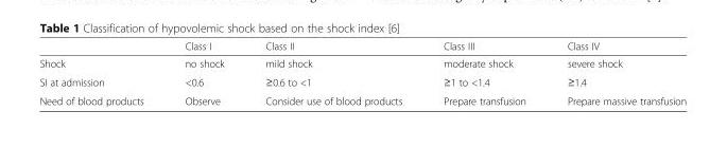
<table><thead><tr><td></td><td>Class I</td><td>Class II</td><td>Class III</td><td>Class IV</td></tr></thead><tbody><tr><td>Shock</td><td>no shock</td><td>mild shock</td><td>moderate shock</td><td>severe shock</td></tr><tr><td>SI at admission</td><td>&lt;0.6</td><td>≥0.6 to &lt;1</td><td>≥1 to &lt;1.4</td><td>≥1.4</td></tr><tr><td>Need of blood products</td><td>Observe</td><td>Consider use of blood products</td><td>Prepare transfusion</td><td>Prepare massive transfusion</td></tr></tbody></table>